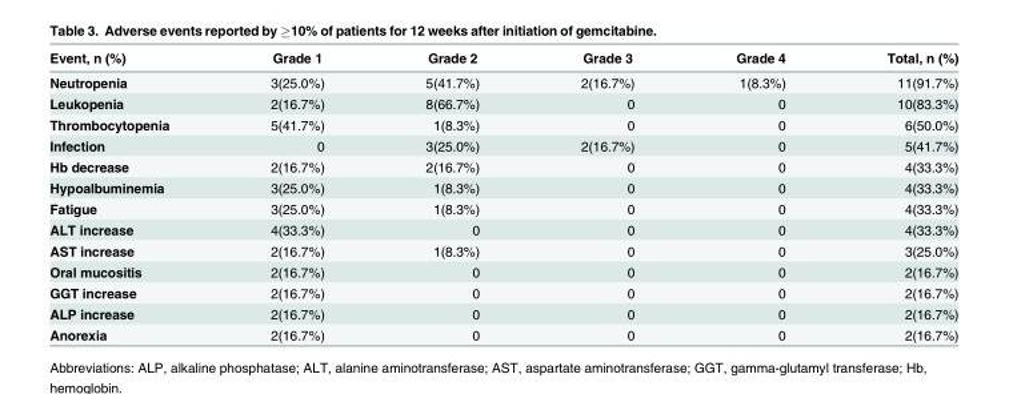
<table><thead><tr><td>Event, n (%)</td><td>Grade 1</td><td>Grade 2</td><td>Grade 3</td><td>Grade 4</td><td>Total, n (%)</td></tr></thead><tbody><tr><td>Neutropenia</td><td>3(25.0%)</td><td>5(41.7%)</td><td>2(16.7%)</td><td>1(8.3%)</td><td>11(91.7%)</td></tr><tr><td>Leukopenia</td><td>2(16.7%)</td><td>8(66.7%)</td><td>0</td><td>0</td><td>10(83.3%)</td></tr><tr><td>Thrombocytopenia</td><td>5(41.7%)</td><td>1(8.3%)</td><td>0</td><td>0</td><td>6(50.0%)</td></tr><tr><td>Infection</td><td>0</td><td>3(25.0%)</td><td>2(16.7%)</td><td>0</td><td>5(41.7%)</td></tr><tr><td>Hb decrease</td><td>2(16.7%)</td><td>2(16.7%)</td><td>0</td><td>0</td><td>4(33.3%)</td></tr><tr><td>Hypoalbuminemia</td><td>3(25.0%)</td><td>1(8.3%)</td><td>0</td><td>0</td><td>4(33.3%)</td></tr><tr><td>Fatigue</td><td>3(25.0%)</td><td>1(8.3%)</td><td>0</td><td>0</td><td>4(33.3%)</td></tr><tr><td>ALT increase</td><td>4(33.3%)</td><td>0</td><td>0</td><td>0</td><td>4(33.3%)</td></tr><tr><td>AST increase</td><td>2(16.7%)</td><td>1(8.3%)</td><td>0</td><td>0</td><td>3(25.0%)</td></tr><tr><td>Oral mucositis</td><td>2(16.7%)</td><td>0</td><td>0</td><td>0</td><td>2(16.7%)</td></tr><tr><td>GGT increase</td><td>2(16.7%)</td><td>0</td><td>0</td><td>0</td><td>2(16.7%)</td></tr><tr><td>ALP increase</td><td>2(16.7%)</td><td>0</td><td>0</td><td>0</td><td>2(16.7%)</td></tr><tr><td>Anorexia</td><td>2(16.7%)</td><td>0</td><td>0</td><td>0</td><td>2(16.7%)</td></tr></tbody></table>